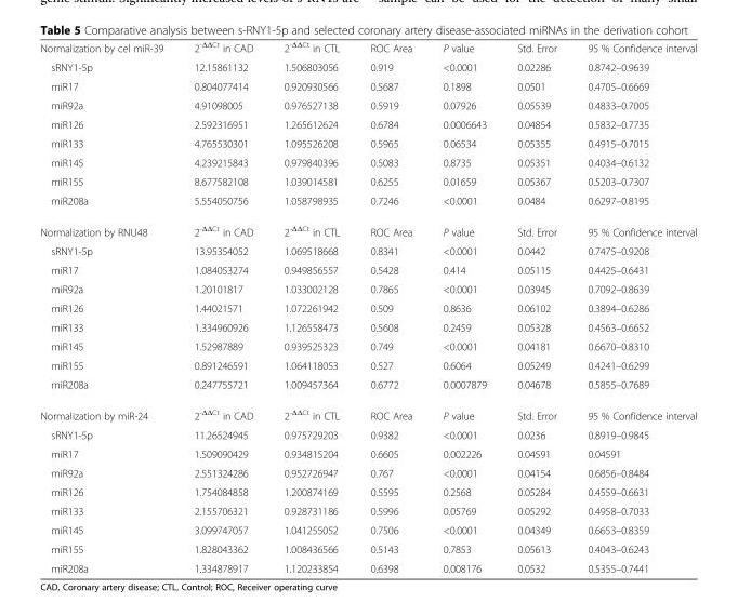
<table><tbody><tr><td>Normalization by cel miR-39</td><td>2<sup>-ΔΔCt</sup> in CAD</td><td>2<sup>-ΔΔCt</sup> in CTL</td><td>ROC Area</td><td>P value</td><td>Std. Error</td><td>95 % Confidence interval</td></tr><tr><td>sRNY1-5p</td><td>12.15861132</td><td>1.506803056</td><td>0.919</td><td>&lt;0.0001</td><td>0.02286</td><td>0.8742–0.9639</td></tr><tr><td>miR17</td><td>0.804077414</td><td>0.920930566</td><td>0.5687</td><td>0.1898</td><td>0.0501</td><td>0.4705–0.6669</td></tr><tr><td>miR92a</td><td>4.91098005</td><td>0.976527138</td><td>0.5919</td><td>0.07926</td><td>0.05539</td><td>0.4833–0.7005</td></tr><tr><td>miR126</td><td>2.592316951</td><td>1.265612624</td><td>0.6784</td><td>0.0006643</td><td>0.04854</td><td>0.5832–0.7735</td></tr><tr><td>miR133</td><td>4.765530301</td><td>1.095526208</td><td>0.5965</td><td>0.06534</td><td>0.05355</td><td>0.4915–0.7015</td></tr><tr><td>miR145</td><td>4.239215843</td><td>0.979840396</td><td>0.5083</td><td>0.8735</td><td>0.05351</td><td>0.4034–0.6132</td></tr><tr><td>miR155</td><td>8.677582108</td><td>1.039014581</td><td>0.6255</td><td>0.01659</td><td>0.05367</td><td>0.5203–0.7307</td></tr><tr><td>miR208a</td><td>5.554050756</td><td>1.058798935</td><td>0.7246</td><td>&lt;0.0001</td><td>0.0484</td><td>0.6297–0.8195</td></tr><tr><td>Normalization by RNU48</td><td>2<sup>-ΔΔCt</sup> in CAD</td><td>2<sup>-ΔΔCt</sup> in CTL</td><td>ROC Area</td><td>P value</td><td>Std. Error</td><td>95 % Confidence interval</td></tr><tr><td>sRNY1-5p</td><td>13.95354052</td><td>1.069518668</td><td>0.8341</td><td>&lt;0.0001</td><td>0.0442</td><td>0.7475–0.9208</td></tr><tr><td>miR17</td><td>1.084053274</td><td>0.949856557</td><td>0.5428</td><td>0.414</td><td>0.05115</td><td>0.4425–0.6431</td></tr><tr><td>miR92a</td><td>1.20101817</td><td>1.033002128</td><td>0.7865</td><td>&lt;0.0001</td><td>0.03945</td><td>0.7092–0.8639</td></tr><tr><td>miR126</td><td>1.44021571</td><td>1.072261942</td><td>0.509</td><td>0.8636</td><td>0.06102</td><td>0.3894–0.6286</td></tr><tr><td>miR133</td><td>1.334960926</td><td>1.126558473</td><td>0.5608</td><td>0.2459</td><td>0.05328</td><td>0.4563–0.6652</td></tr><tr><td>miR145</td><td>1.52987889</td><td>0.939525323</td><td>0.749</td><td>&lt;0.0001</td><td>0.04181</td><td>0.6670–0.8310</td></tr><tr><td>miR155</td><td>0.891246591</td><td>1.064118053</td><td>0.527</td><td>0.6064</td><td>0.05249</td><td>0.4241–0.6299</td></tr><tr><td>miR208a</td><td>0.247755721</td><td>1.009457364</td><td>0.6772</td><td>0.0007879</td><td>0.04678</td><td>0.5855–0.7689</td></tr><tr><td>Normalization by miR-24</td><td>2<sup>-ΔΔCt</sup> in CAD</td><td>2<sup>-ΔΔCt</sup> in CTL</td><td>ROC Area</td><td>P value</td><td>Std. Error</td><td>95 % Confidence interval</td></tr><tr><td>sRNY1-5p</td><td>11.26524945</td><td>0.975729203</td><td>0.9382</td><td>&lt;0.0001</td><td>0.0236</td><td>0.8919–0.9845</td></tr><tr><td>miR17</td><td>1.509090429</td><td>0.934815204</td><td>0.6605</td><td>0.002226</td><td>0.04591</td><td>0.04591</td></tr><tr><td>miR92a</td><td>2.551324286</td><td>0.952726947</td><td>0.767</td><td>&lt;0.0001</td><td>0.04154</td><td>0.6856–0.8484</td></tr><tr><td>miR126</td><td>1.754084858</td><td>1.200874169</td><td>0.5595</td><td>0.2568</td><td>0.05284</td><td>0.4559–0.6631</td></tr><tr><td>miR133</td><td>2.155706321</td><td>0.928731186</td><td>0.5996</td><td>0.05769</td><td>0.05292</td><td>0.4958–0.7033</td></tr><tr><td>miR145</td><td>3.099747057</td><td>1.041255052</td><td>0.7506</td><td>&lt;0.0001</td><td>0.04349</td><td>0.6653–0.8359</td></tr><tr><td>miR155</td><td>1.828043362</td><td>1.008436566</td><td>0.5143</td><td>0.7853</td><td>0.05613</td><td>0.4043–0.6243</td></tr><tr><td>miR208a</td><td>1.334878917</td><td>1.120233854</td><td>0.6398</td><td>0.008176</td><td>0.0532</td><td>0.5355–0.7441</td></tr></tbody></table>